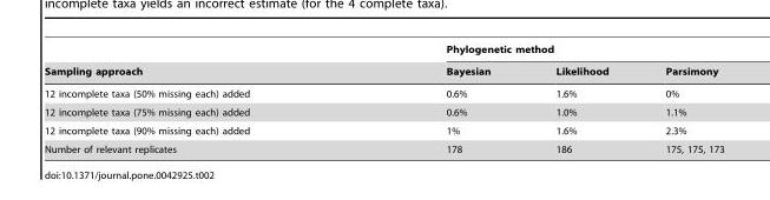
<table><thead><tr><td rowspan="2">Sampling approach</td><td colspan="3">Phylogenetic method</td></tr><tr><td>Bayesian</td><td>Likelihood</td><td>Parsimony</td></tr></thead><tbody><tr><td>12 incomplete taxa (50% missing each) added</td><td>0.6%</td><td>1.6%</td><td>0%</td></tr><tr><td>12 incomplete taxa (75% missing each) added</td><td>0.6%</td><td>1.0%</td><td>1.1%</td></tr><tr><td>12 incomplete taxa (90% missing each) added</td><td>1%</td><td>1.6%</td><td>2.3%</td></tr><tr><td>Number of relevant replicates</td><td>178</td><td>186</td><td>175, 175, 173</td></tr></tbody></table>